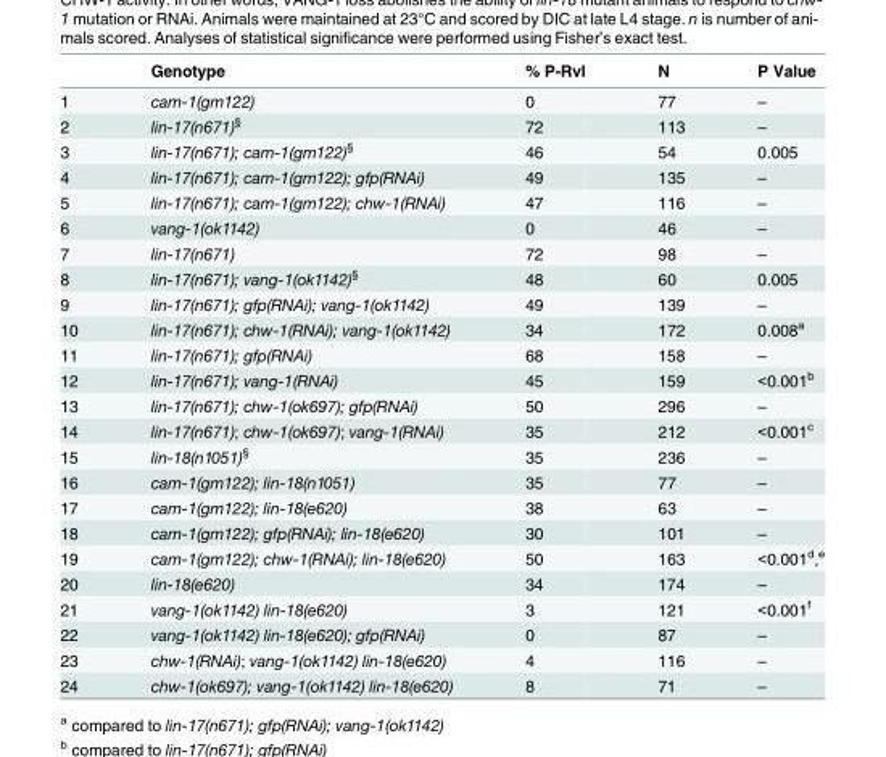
<table><thead><tr><td></td><td>Genotype</td><td>% P-Rvl</td><td>N</td><td>P Value</td></tr></thead><tbody><tr><td>1</td><td>cam-1(gm122)</td><td>0</td><td>77</td><td>–</td></tr><tr><td>2</td><td>lin-17(n671)<sup>§</sup></td><td>72</td><td>113</td><td>–</td></tr><tr><td>3</td><td>lin-17(n671); cam-1(gm122)<sup>§</sup></td><td>46</td><td>54</td><td>0.005</td></tr><tr><td>4</td><td>lin-17(n671); cam-1(gm122); gfp(RNAi)</td><td>49</td><td>135</td><td>–</td></tr><tr><td>5</td><td>lin-17(n671); cam-1(gm122); chw-1(RNAi)</td><td>47</td><td>116</td><td>–</td></tr><tr><td>6</td><td>vang-1(ok1142)</td><td>0</td><td>46</td><td>–</td></tr><tr><td>7</td><td>lin-17(n671)</td><td>72</td><td>98</td><td>–</td></tr><tr><td>8</td><td>lin-17(n671); vang-1(ok1142)<sup>§</sup></td><td>48</td><td>60</td><td>0.005</td></tr><tr><td>9</td><td>lin-17(n671); gfp(RNAi); vang-1(ok1142)</td><td>49</td><td>139</td><td>–</td></tr><tr><td>10</td><td>lin-17(n671); chw-1(RNAi); vang-1(ok1142)</td><td>34</td><td>172</td><td>0.008<sup>a</sup></td></tr><tr><td>11</td><td>lin-17(n671); gfp(RNAi)</td><td>68</td><td>158</td><td>–</td></tr><tr><td>12</td><td>lin-17(n671); vang-1(RNAi)</td><td>45</td><td>159</td><td>&lt;0.001<sup>b</sup></td></tr><tr><td>13</td><td>lin-17(n671); chw-1(ok697); gfp(RNAi)</td><td>50</td><td>296</td><td>–</td></tr><tr><td>14</td><td>lin-17(n671); chw-1(ok697); vang-1(RNAi)</td><td>35</td><td>212</td><td>&lt;0.001<sup>c</sup></td></tr><tr><td>15</td><td>lin-18(n1051)<sup>§</sup></td><td>35</td><td>236</td><td>–</td></tr><tr><td>16</td><td>cam-1(gm122); lin-18(n1051)</td><td>35</td><td>77</td><td>–</td></tr><tr><td>17</td><td>cam-1(gm122); lin-18(e620)</td><td>38</td><td>63</td><td>–</td></tr><tr><td>18</td><td>cam-1(gm122); gfp(RNAi); lin-18(e620)</td><td>30</td><td>101</td><td>–</td></tr><tr><td>19</td><td>cam-1(gm122); chw-1(RNAi); lin-18(e620)</td><td>50</td><td>163</td><td>&lt;0.001<sup>d</sup>,<sup>e</sup></td></tr><tr><td>20</td><td>lin-18(e620)</td><td>34</td><td>174</td><td>–</td></tr><tr><td>21</td><td>vang-1(ok1142) lin-18(e620)</td><td>3</td><td>121</td><td>&lt;0.001<sup>f</sup></td></tr><tr><td>22</td><td>vang-1(ok1142) lin-18(e620); gfp(RNAi)</td><td>0</td><td>87</td><td>–</td></tr><tr><td>23</td><td>chw-1(RNAi); vang-1(ok1142) lin-18(e620)</td><td>4</td><td>116</td><td>–</td></tr><tr><td>24</td><td>chw-1(ok697); vang-1(ok1142) lin-18(e620)</td><td>8</td><td>71</td><td>–</td></tr></tbody></table>